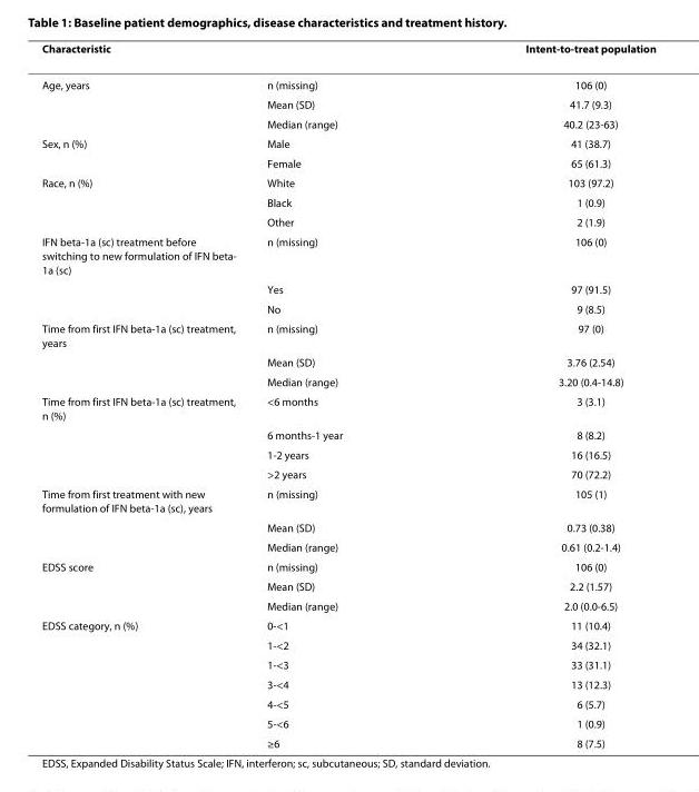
<table><thead><tr><td>Characteristic</td><td></td><td>Intent-to-treat population</td></tr></thead><tbody><tr><td rowspan="3">Age, years</td><td>n (missing)</td><td>106 (0)</td></tr><tr><td>Mean (SD)</td><td>41.7 (9.3)</td></tr><tr><td>Median (range)</td><td>40.2 (23-63)</td></tr><tr><td rowspan="2">Sex, n (%)</td><td>Male</td><td>41 (38.7)</td></tr><tr><td>Female</td><td>65 (61.3)</td></tr><tr><td rowspan="3">Race, n (%)</td><td>White</td><td>103 (97.2)</td></tr><tr><td>Black</td><td>1 (0.9)</td></tr><tr><td>Other</td><td>2 (1.9)</td></tr><tr><td rowspan="3">IFN beta-1a (sc) treatment before switching to new formulation of IFN beta- 1a (sc)</td><td>n (missing)</td><td>106 (0)</td></tr><tr><td>Yes</td><td>97 (91.5)</td></tr><tr><td>No</td><td>9 (8.5)</td></tr><tr><td rowspan="3">Time from first IFN beta-1a (sc) treatment, years</td><td>n (missing)</td><td>97 (0)</td></tr><tr><td>Mean (SD)</td><td>3.76 (2.54)</td></tr><tr><td>Median (range)</td><td>3.20 (0.4-14.8)</td></tr><tr><td rowspan="4">Time from first IFN beta-1a (sc) treatment, n (%)</td><td>&lt;6 months</td><td>3 (3.1)</td></tr><tr><td>6 months-1 year</td><td>8 (8.2)</td></tr><tr><td>1-2 years</td><td>16 (16.5)</td></tr><tr><td>&gt;2 years</td><td>70 (72.2)</td></tr><tr><td rowspan="3">Time from first treatment with new formulation of IFN beta-1a (sc), years</td><td>n (missing)</td><td>105 (1)</td></tr><tr><td>Mean (SD)</td><td>0.73 (0.38)</td></tr><tr><td>Median (range)</td><td>0.61 (0.2-1.4)</td></tr><tr><td rowspan="3">EDSS score</td><td>n (missing)</td><td>106 (0)</td></tr><tr><td>Mean (SD)</td><td>2.2 (1.57)</td></tr><tr><td>Median (range)</td><td>2.0 (0.0-6.5)</td></tr><tr><td rowspan="7">EDSS category, n (%)</td><td>0-&lt;1</td><td>11 (10.4)</td></tr><tr><td>1-&lt;2</td><td>34 (32.1)</td></tr><tr><td>1-&lt;3</td><td>33 (31.1)</td></tr><tr><td>3-&lt;4</td><td>13 (12.3)</td></tr><tr><td>4-&lt;5</td><td>6 (5.7)</td></tr><tr><td>5-&lt;6</td><td>1 (0.9)</td></tr><tr><td>≥6</td><td>8 (7.5)</td></tr></tbody></table>